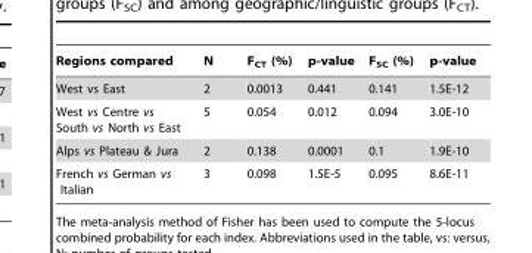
<table><thead><tr><td>Regions compared</td><td>N</td><td>F<sub>CT</sub> (%)</td><td>p-value</td><td>F<sub>SC</sub> (%)</td><td>p-value</td></tr></thead><tbody><tr><td>West vs East</td><td>2</td><td>0.0013</td><td>0.441</td><td>0.141</td><td>1.5E-12</td></tr><tr><td>West vs Centre vs South vs North vs East</td><td>5</td><td>0.054</td><td>0.012</td><td>0.094</td><td>3.0E-10</td></tr><tr><td>Alps vs Plateau &amp; Jura</td><td>2</td><td>0.138</td><td>0.0001</td><td>0.1</td><td>1.9E-10</td></tr><tr><td>French vs German vs Italian</td><td>3</td><td>0.098</td><td>1.5E-5</td><td>0.095</td><td>8.6E-11</td></tr></tbody></table>